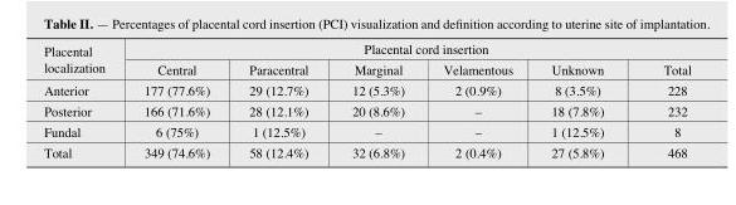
<table><thead><tr><td rowspan="2">Placental localization</td><td colspan="6">Placental cord insertion</td></tr><tr><td>Central</td><td>Paracentral</td><td>Marginal</td><td>Velamentous</td><td>Unknown</td><td>Total</td></tr></thead><tbody><tr><td>Anterior</td><td>177 (77.6%)</td><td>29 (12.7%)</td><td>12 (5.3%)</td><td>2 (0.9%)</td><td>8 (3.5%)</td><td>228</td></tr><tr><td>Posterior</td><td>166 (71.6%)</td><td>28 (12.1%)</td><td>20 (8.6%)</td><td>–</td><td>18 (7.8%)</td><td>232</td></tr><tr><td>Fundal</td><td>6 (75%)</td><td>1 (12.5%)</td><td>–</td><td>–</td><td>1 (12.5%)</td><td>8</td></tr><tr><td>Total</td><td>349 (74.6%)</td><td>58 (12.4%)</td><td>32 (6.8%)</td><td>2 (0.4%)</td><td>27 (5.8%)</td><td>468</td></tr></tbody></table>